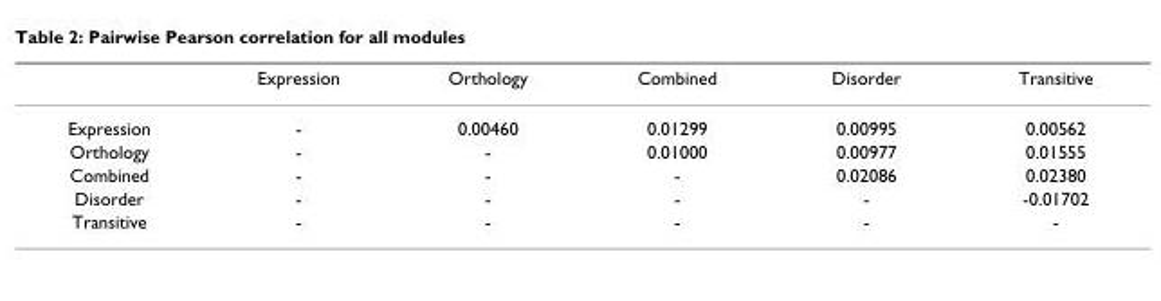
<table><thead><tr><td></td><td>Expression</td><td>Orthology</td><td>Combined</td><td>Disorder</td><td>Transitive</td></tr></thead><tbody><tr><td>Expression</td><td>-</td><td>0.00460</td><td>0.01299</td><td>0.00995</td><td>0.00562</td></tr><tr><td>Orthology</td><td>-</td><td>-</td><td>0.01000</td><td>0.00977</td><td>0.01555</td></tr><tr><td>Combined</td><td>-</td><td>-</td><td>-</td><td>0.02086</td><td>0.02380</td></tr><tr><td>Disorder</td><td>-</td><td>-</td><td>-</td><td>-</td><td>-0.01702</td></tr><tr><td>Transitive</td><td>-</td><td>-</td><td>-</td><td>-</td><td>-</td></tr></tbody></table>